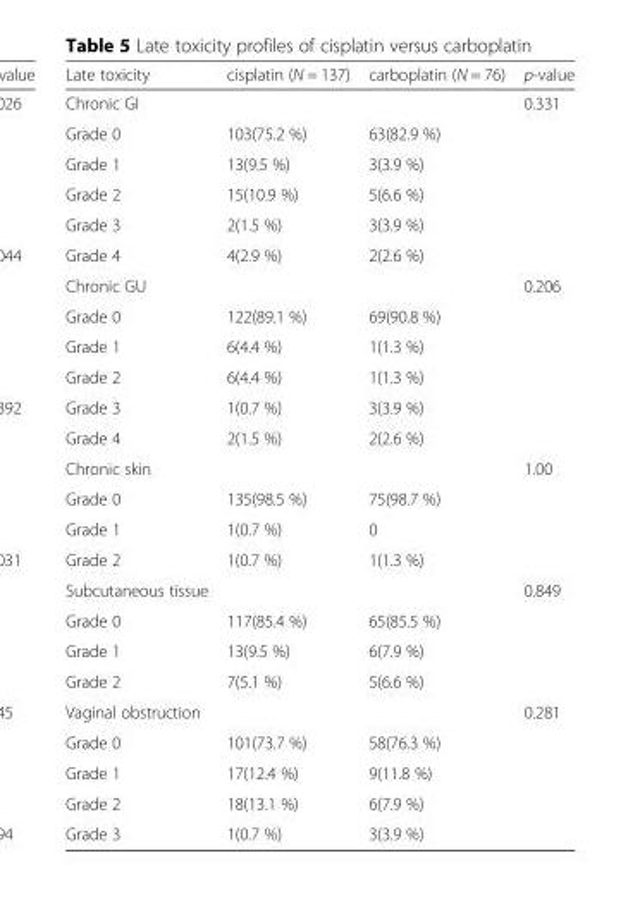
<table><thead><tr><td>Late toxicity</td><td>cisplatin (N = 137)</td><td>carboplatin (N = 76)</td><td>p-value</td></tr></thead><tbody><tr><td colspan="3">Chronic GI</td><td rowspan="6">0.331</td></tr><tr><td>Grade 0</td><td>103(75.2 %)</td><td>63(82.9 %)</td></tr><tr><td>Grade 1</td><td>13(9.5 %)</td><td>3(3.9 %)</td></tr><tr><td>Grade 2</td><td>15(10.9 %)</td><td>5(6.6 %)</td></tr><tr><td>Grade 3</td><td>2(1.5 %)</td><td>3(3.9 %)</td></tr><tr><td>Grade 4</td><td>4(2.9 %)</td><td>2(2.6 %)</td></tr><tr><td colspan="3">Chronic GU</td><td rowspan="6">0.206</td></tr><tr><td>Grade 0</td><td>122(89.1 %)</td><td>69(90.8 %)</td></tr><tr><td>Grade 1</td><td>6(4.4 %)</td><td>1(1.3 %)</td></tr><tr><td>Grade 2</td><td>6(4.4 %)</td><td>1(1.3 %)</td></tr><tr><td>Grade 3</td><td>1(0.7 %)</td><td>3(3.9 %)</td></tr><tr><td>Grade 4</td><td>2(1.5 %)</td><td>2(2.6 %)</td></tr><tr><td colspan="3">Chronic skin</td><td rowspan="4">1.00</td></tr><tr><td>Grade 0</td><td>135(98.5 %)</td><td>75(98.7 %)</td></tr><tr><td>Grade 1</td><td>1(0.7 %)</td><td>0</td></tr><tr><td>Grade 2</td><td>1(0.7 %)</td><td>1(1.3 %)</td></tr><tr><td colspan="3">Subcutaneous tissue</td><td rowspan="4">0.849</td></tr><tr><td>Grade 0</td><td>117(85.4 %)</td><td>65(85.5 %)</td></tr><tr><td>Grade 1</td><td>13(9.5 %)</td><td>6(7.9 %)</td></tr><tr><td>Grade 2</td><td>7(5.1 %)</td><td>5(6.6 %)</td></tr><tr><td colspan="3">Vaginal obstruction</td><td rowspan="5">0.281</td></tr><tr><td>Grade 0</td><td>101(73.7 %)</td><td>58(76.3 %)</td></tr><tr><td>Grade 1</td><td>17(12.4 %)</td><td>9(11.8 %)</td></tr><tr><td>Grade 2</td><td>18(13.1 %)</td><td>6(7.9 %)</td></tr><tr><td>Grade 3</td><td>1(0.7 %)</td><td>3(3.9 %)</td></tr></tbody></table>